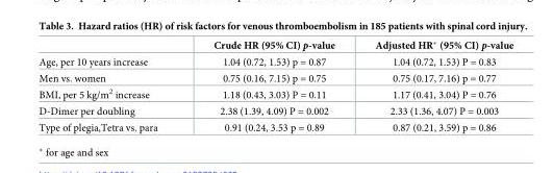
<table><thead><tr><td></td><td>Crude HR (95% CI) p-value</td><td>Adjusted HR* (95% CI) p-value</td></tr></thead><tbody><tr><td>Age, per 10 years increase</td><td>1.04 (0.72, 1.53) p = 0.87</td><td>1.04 (0.72, 1.53) P = 0.83</td></tr><tr><td>Men vs. women</td><td>0.75 (0.16, 7.15) p = 0.75</td><td>0.75 (0.17, 7.16) p = 0.77</td></tr><tr><td>BMI, per 5 kg/m<sup>2</sup> increase</td><td>1.18 (0.43, 3.03) P = 0.11</td><td>1.17 (0.41, 3.04) P = 0.76</td></tr><tr><td>D-Dimer per doubling</td><td>2.38 (1.39, 4.09) P = 0.002</td><td>2.33 (1.36, 4.07) P = 0.003</td></tr><tr><td>Type of plegia,Tetra vs. para</td><td>0.91 (0.24, 3.53 p = 0.89</td><td>0.87 (0.21, 3.59) p = 0.86</td></tr></tbody></table>